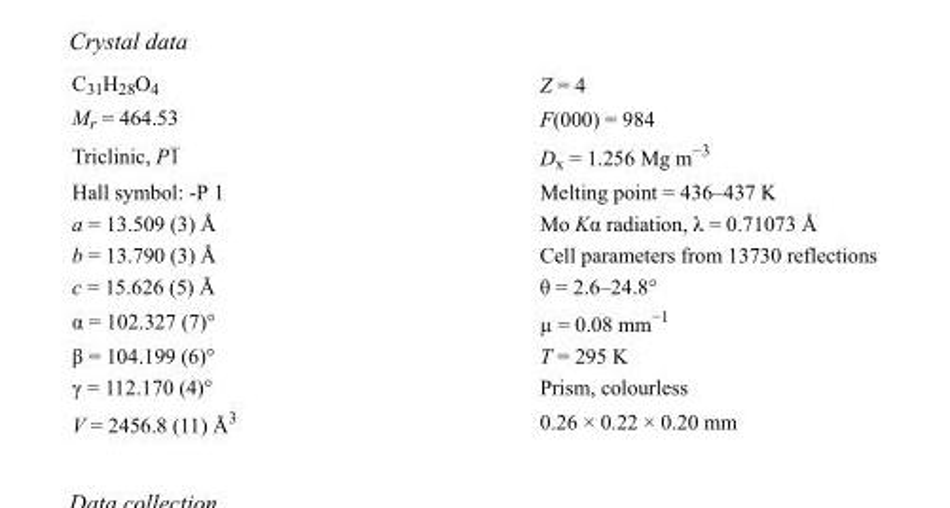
<table><tbody><tr><td>C<sub>31</sub>H<sub>28</sub>O<sub>4</sub></td><td>Z = 4</td></tr><tr><td>M<sub>r</sub> = 464.53</td><td>F(000) = 984</td></tr><tr><td>Triclinic, P1</td><td>D<sub>x</sub> = 1.256 Mg m<sup>−3</sup></td></tr><tr><td>Hall symbol: -P 1</td><td>Melting point = 436–437 K</td></tr><tr><td>a = 13.509 (3) Å</td><td>Mo Kα radiation, λ = 0.71073 Å</td></tr><tr><td>b = 13.790 (3) Å</td><td>Cell parameters from 13730 reflections</td></tr><tr><td>c = 15.626 (5) Å</td><td>θ = 2.6–24.8°</td></tr><tr><td>α = 102.327 (7)°</td><td>µ = 0.08 mm<sup>−1</sup></td></tr><tr><td>β = 104.199 (6)°</td><td>T = 295 K</td></tr><tr><td>γ = 112.170 (4)°</td><td>Prism, colourless</td></tr><tr><td>V = 2456.8 (11) Å<sup>3</sup></td><td>0.26 × 0.22 × 0.20 mm</td></tr></tbody></table>